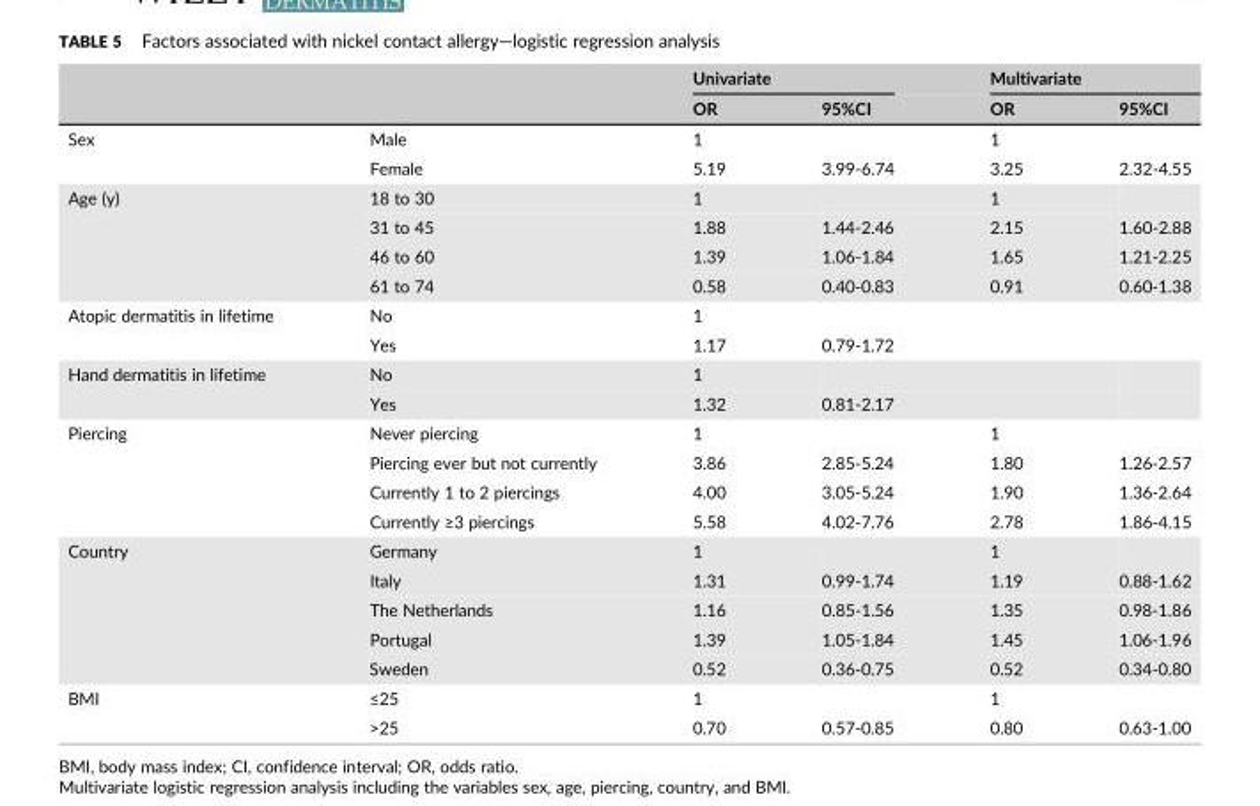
<table><thead><tr><td rowspan="2"></td><td rowspan="2"></td><td colspan="2">Univariate</td><td colspan="2">Multivariate</td></tr><tr><td>OR</td><td>95%CI</td><td>OR</td><td>95%CI</td></tr></thead><tbody><tr><td rowspan="2">Sex</td><td>Male</td><td>1</td><td></td><td>1</td><td></td></tr><tr><td>Female</td><td>5.19</td><td>3.99-6.74</td><td>3.25</td><td>2.32-4.55</td></tr><tr><td rowspan="4">Age (y)</td><td>18 to 30</td><td>1</td><td></td><td>1</td><td></td></tr><tr><td>31 to 45</td><td>1.88</td><td>1.44-2.46</td><td>2.15</td><td>1.60-2.88</td></tr><tr><td>46 to 60</td><td>1.39</td><td>1.06-1.84</td><td>1.65</td><td>1.21-2.25</td></tr><tr><td>61 to 74</td><td>0.58</td><td>0.40-0.83</td><td>0.91</td><td>0.60-1.38</td></tr><tr><td rowspan="2">Atopic dermatitis in lifetime</td><td>No</td><td>1</td><td></td><td></td><td></td></tr><tr><td>Yes</td><td>1.17</td><td>0.79-1.72</td><td></td><td></td></tr><tr><td rowspan="2">Hand dermatitis in lifetime</td><td>No</td><td>1</td><td></td><td></td><td></td></tr><tr><td>Yes</td><td>1.32</td><td>0.81-2.17</td><td></td><td></td></tr><tr><td rowspan="4">Piercing</td><td>Never piercing</td><td>1</td><td></td><td>1</td><td></td></tr><tr><td>Piercing ever but not currently</td><td>3.86</td><td>2.85-5.24</td><td>1.80</td><td>1.26-2.57</td></tr><tr><td>Currently 1 to 2 piercings</td><td>4.00</td><td>3.05-5.24</td><td>1.90</td><td>1.36-2.64</td></tr><tr><td>Currently ≥3 piercings</td><td>5.58</td><td>4.02-7.76</td><td>2.78</td><td>1.86-4.15</td></tr><tr><td rowspan="5">Country</td><td>Germany</td><td>1</td><td></td><td>1</td><td></td></tr><tr><td>Italy</td><td>1.31</td><td>0.99-1.74</td><td>1.19</td><td>0.88-1.62</td></tr><tr><td>The Netherlands</td><td>1.16</td><td>0.85-1.56</td><td>1.35</td><td>0.98-1.86</td></tr><tr><td>Portugal</td><td>1.39</td><td>1.05-1.84</td><td>1.45</td><td>1.06-1.96</td></tr><tr><td>Sweden</td><td>0.52</td><td>0.36-0.75</td><td>0.52</td><td>0.34-0.80</td></tr><tr><td rowspan="2">BMI</td><td>≤25</td><td>1</td><td></td><td>1</td><td></td></tr><tr><td>&gt;25</td><td>0.70</td><td>0.57-0.85</td><td>0.80</td><td>0.63-1.00</td></tr></tbody></table>